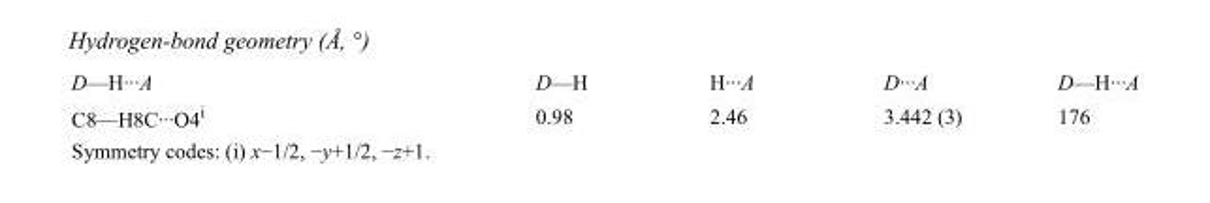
<table><tbody><tr><td>D—H···A</td><td>D—H</td><td>H···A</td><td>D···A</td><td>D—H···A</td></tr><tr><td>C8—H8C···O4<sup>i</sup></td><td>0.98</td><td>2.46</td><td>3.442 (3)</td><td>176</td></tr></tbody></table>